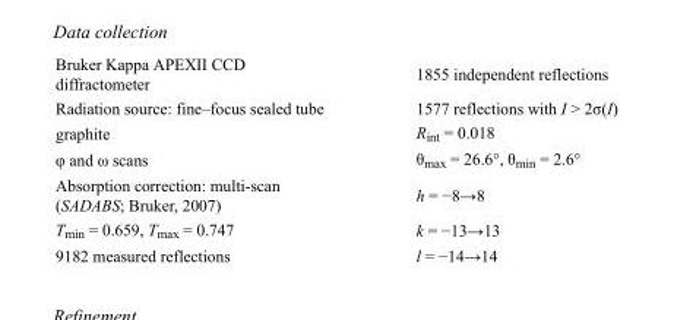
<table><tbody><tr><td>Bruker Kappa APEXII CCD diffractometer</td><td>1855 independent reflections</td></tr><tr><td>Radiation source: fine–focus sealed tube</td><td>1577 reflections with I &gt; 2σ(I)</td></tr><tr><td>graphite</td><td>R<sub>int</sub> = 0.018</td></tr><tr><td>φ and ω scans</td><td>θ<sub>max</sub> = 26.6°, θ<sub>min</sub> = 2.6°</td></tr><tr><td>Absorption correction: multi-scan (SADABS; Bruker, 2007)</td><td>h = −8→8</td></tr><tr><td>T<sub>min</sub> = 0.659, T<sub>max</sub> = 0.747</td><td>k = −13→13</td></tr><tr><td>9182 measured reflections</td><td>l = −14→14</td></tr></tbody></table>